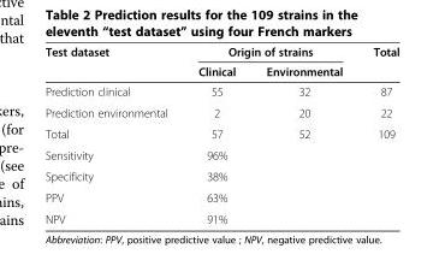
<table><thead><tr><td rowspan="2">Test dataset</td><td colspan="2">Origin of strains</td><td rowspan="2">Total</td></tr><tr><td>Clinical</td><td>Environmental</td></tr></thead><tbody><tr><td>Prediction clinical</td><td>55</td><td>32</td><td>87</td></tr><tr><td>Prediction environmental</td><td>2</td><td>20</td><td>22</td></tr><tr><td>Total</td><td>57</td><td>52</td><td>109</td></tr><tr><td>Sensitivity</td><td>96%</td><td></td><td></td></tr><tr><td>Specificity</td><td>38%</td><td></td><td></td></tr><tr><td>PPV</td><td>63%</td><td></td><td></td></tr><tr><td>NPV</td><td>91%</td><td></td><td></td></tr></tbody></table>